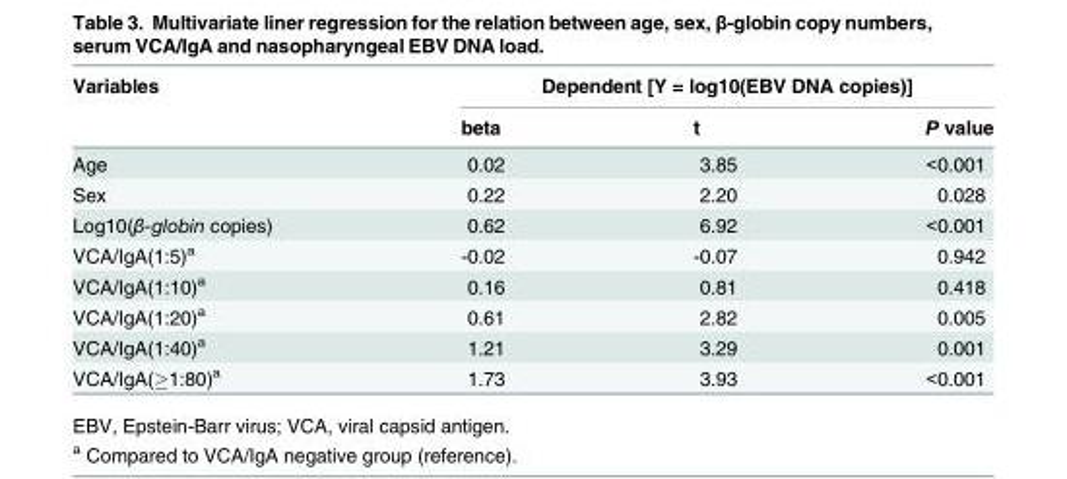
<table><thead><tr><td rowspan="2">Variables</td><td colspan="3">Dependent [Y = log10(EBV DNA copies)]</td></tr><tr><td>beta</td><td>t</td><td>P value</td></tr></thead><tbody><tr><td>Age</td><td>0.02</td><td>3.85</td><td>&lt;0.001</td></tr><tr><td>Sex</td><td>0.22</td><td>2.20</td><td>0.028</td></tr><tr><td>Log10(β-globin copies)</td><td>0.62</td><td>6.92</td><td>&lt;0.001</td></tr><tr><td>VCA/IgA(1:5)<sup>a</sup></td><td>-0.02</td><td>-0.07</td><td>0.942</td></tr><tr><td>VCA/IgA(1:10)<sup>a</sup></td><td>0.16</td><td>0.81</td><td>0.418</td></tr><tr><td>VCA/IgA(1:20)<sup>a</sup></td><td>0.61</td><td>2.82</td><td>0.005</td></tr><tr><td>VCA/IgA(1:40)<sup>a</sup></td><td>1.21</td><td>3.29</td><td>0.001</td></tr><tr><td>VCA/IgA(≥1:80)<sup>a</sup></td><td>1.73</td><td>3.93</td><td>&lt;0.001</td></tr></tbody></table>